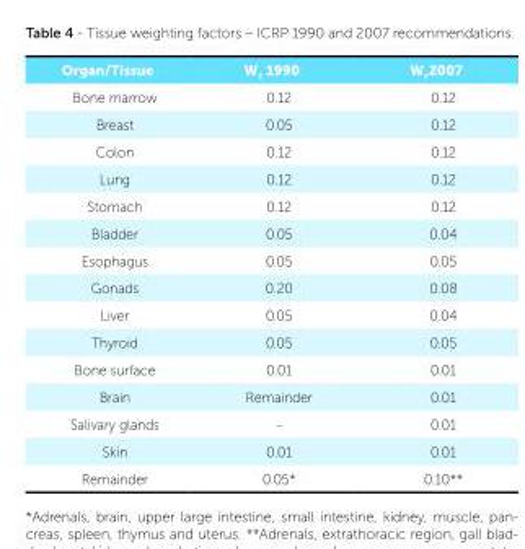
<table><tbody><tr><td>Organ/Tissue</td><td>W<sub>T</sub> 1990</td><td>W<sub>T</sub>2007</td></tr><tr><td>Bone marrow</td><td>0.12</td><td>0.12</td></tr><tr><td>Breast</td><td>0.05</td><td>0.12</td></tr><tr><td>Colon</td><td>0.12</td><td>0.12</td></tr><tr><td>Lung</td><td>0.12</td><td>0.12</td></tr><tr><td>Stomach</td><td>0.12</td><td>0.12</td></tr><tr><td>Bladder</td><td>0.05</td><td>0.04</td></tr><tr><td>Esophagus</td><td>0.05</td><td>0.05</td></tr><tr><td>Gonads</td><td>0.20</td><td>0.08</td></tr><tr><td>Liver</td><td>0.05</td><td>0.04</td></tr><tr><td>Thyroid</td><td>0.05</td><td>0.05</td></tr><tr><td>Bone surface</td><td>0.01</td><td>0.01</td></tr><tr><td>Brain</td><td>Remainder</td><td>0.01</td></tr><tr><td>Salivary glands</td><td>-</td><td>0.01</td></tr><tr><td>Skin</td><td>0.01</td><td>0.01</td></tr><tr><td>Remainder</td><td>0.05*</td><td>0.10**</td></tr></tbody></table>